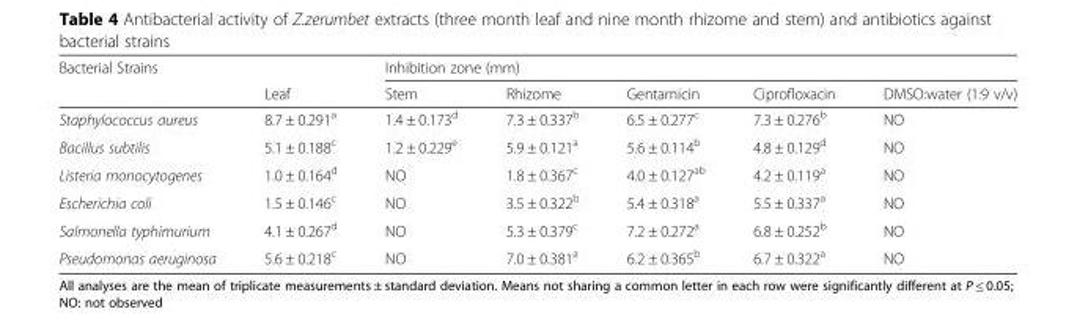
<table><thead><tr><td rowspan="2">Bacterial Strains</td><td rowspan="2">Leaf</td><td colspan="5">Inhibition zone (mm)</td></tr><tr><td>Stem</td><td>Rhizome</td><td>Gentamicin</td><td>Ciprofloxacin</td><td>DMSO:water (1:9 v/v)</td></tr></thead><tbody><tr><td>Staphylococcus aureus</td><td>8.7 ± 0.291<sup>a</sup></td><td>1.4 ± 0.173<sup>d</sup></td><td>7.3 ± 0.337<sup>b</sup></td><td>6.5 ± 0.277<sup>c</sup></td><td>7.3 ± 0.276<sup>b</sup></td><td>NO</td></tr><tr><td>Bacillus subtilis</td><td>5.1 ± 0.188<sup>c</sup></td><td>1.2 ± 0.229<sup>e</sup></td><td>5.9 ± 0.121<sup>a</sup></td><td>5.6 ± 0.114<sup>b</sup></td><td>4.8 ± 0.129<sup>d</sup></td><td>NO</td></tr><tr><td>Listeria monocytogenes</td><td>1.0 ± 0.164<sup>d</sup></td><td>NO</td><td>1.8 ± 0.367<sup>c</sup></td><td>4.0 ± 0.127<sup>ab</sup></td><td>4.2 ± 0.119<sup>a</sup></td><td>NO</td></tr><tr><td>Escherichia coli</td><td>1.5 ± 0.146<sup>c</sup></td><td>NO</td><td>3.5 ± 0.322<sup>b</sup></td><td>5.4 ± 0.318<sup>a</sup></td><td>5.5 ± 0.337<sup>a</sup></td><td>NO</td></tr><tr><td>Salmonella typhimurium</td><td>4.1 ± 0.267<sup>d</sup></td><td>NO</td><td>5.3 ± 0.379<sup>c</sup></td><td>7.2 ± 0.272<sup>a</sup></td><td>6.8 ± 0.252<sup>b</sup></td><td>NO</td></tr><tr><td>Pseudomonas aeruginosa</td><td>5.6 ± 0.218<sup>c</sup></td><td>NO</td><td>7.0 ± 0.381<sup>a</sup></td><td>6.2 ± 0.365<sup>b</sup></td><td>6.7 ± 0.322<sup>a</sup></td><td>NO</td></tr></tbody></table>